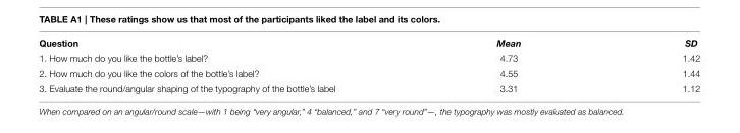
<table><thead><tr><td>Question</td><td>Mean</td><td>SD</td></tr></thead><tbody><tr><td>1. How much do you like the bottle’s label?</td><td>4.73</td><td>1.42</td></tr><tr><td>2. How much do you like the colors of the bottle’s label?</td><td>4.55</td><td>1.44</td></tr><tr><td>3. Evaluate the round/angular shaping of the typography of the bottle’s label</td><td>3.31</td><td>1.12</td></tr></tbody></table>